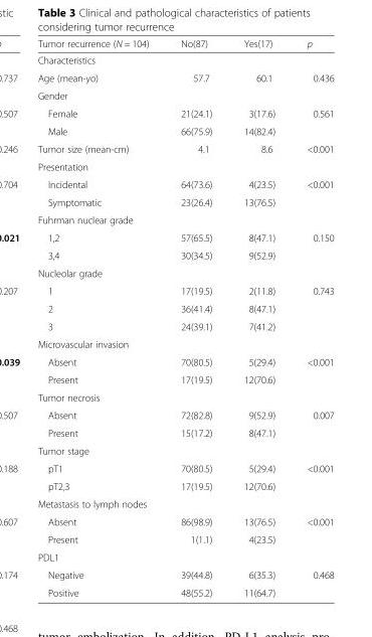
<table><thead><tr><td>Tumor recurrence (N = 104)</td><td>No(87)</td><td>Yes(17)</td><td>p</td></tr></thead><tbody><tr><td colspan="4">Characteristics</td></tr><tr><td>Age (mean-yo)</td><td>57.7</td><td>60.1</td><td>0.436</td></tr><tr><td colspan="4">Gender</td></tr><tr><td>Female</td><td>21(24.1)</td><td>3(17.6)</td><td>0.561</td></tr><tr><td>Male</td><td>66(75.9)</td><td>14(82.4)</td><td></td></tr><tr><td>Tumor size (mean-cm)</td><td>4.1</td><td>8.6</td><td>&lt;0.001</td></tr><tr><td colspan="4">Presentation</td></tr><tr><td>Incidental</td><td>64(73.6)</td><td>4(23.5)</td><td>&lt;0.001</td></tr><tr><td>Symptomatic</td><td>23(26.4)</td><td>13(76.5)</td><td></td></tr><tr><td colspan="4">Fuhrman nuclear grade</td></tr><tr><td>1,2</td><td>57(65.5)</td><td>8(47.1)</td><td>0.150</td></tr><tr><td>3,4</td><td>30(34.5)</td><td>9(52.9)</td><td></td></tr><tr><td colspan="4">Nucleolar grade</td></tr><tr><td>1</td><td>17(19.5)</td><td>2(11.8)</td><td>0.743</td></tr><tr><td>2</td><td>36(41.4)</td><td>8(47.1)</td><td></td></tr><tr><td>3</td><td>24(39.1)</td><td>7(41.2)</td><td></td></tr><tr><td colspan="4">Microvascular invasion</td></tr><tr><td>Absent</td><td>70(80.5)</td><td>5(29.4)</td><td>&lt;0.001</td></tr><tr><td>Present</td><td>17(19.5)</td><td>12(70.6)</td><td></td></tr><tr><td colspan="4">Tumor necrosis</td></tr><tr><td>Absent</td><td>72(82.8)</td><td>9(52.9)</td><td>0.007</td></tr><tr><td>Present</td><td>15(17.2)</td><td>8(47.1)</td><td></td></tr><tr><td colspan="4">Tumor stage</td></tr><tr><td>pT1</td><td>70(80.5)</td><td>5(29.4)</td><td>&lt;0.001</td></tr><tr><td>pT2,3</td><td>17(19.5)</td><td>12(70.6)</td><td></td></tr><tr><td colspan="4">Metastasis to lymph nodes</td></tr><tr><td>Absent</td><td>86(98.9)</td><td>13(76.5)</td><td>&lt;0.001</td></tr><tr><td>Present</td><td>1(1.1)</td><td>4(23.5)</td><td></td></tr><tr><td colspan="4">PDL1</td></tr><tr><td>Negative</td><td>39(44.8)</td><td>6(35.3)</td><td>0.468</td></tr><tr><td>Positive</td><td>48(55.2)</td><td>11(64.7)</td><td></td></tr></tbody></table>